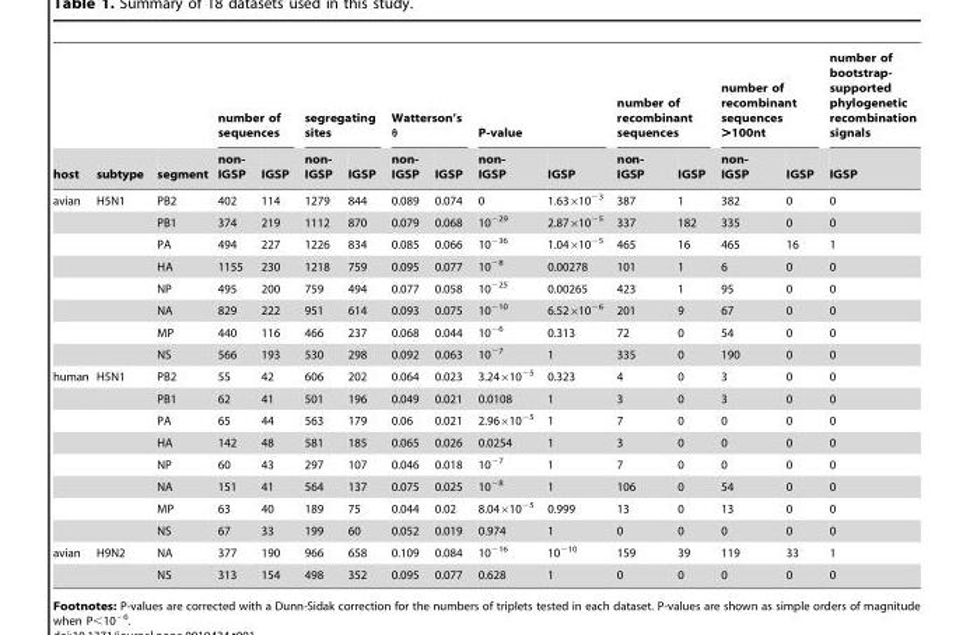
<table><thead><tr><td rowspan="2">host</td><td rowspan="2">subtype</td><td rowspan="2">segment</td><td colspan="2">number of sequences</td><td colspan="2">segregating sites</td><td colspan="2">Watterson’s h</td><td colspan="2">P-value</td><td colspan="2">number of recombinant sequences</td><td colspan="2">number of recombinant sequences &gt;100nt</td><td rowspan="2">number of bootstrap- supported phylogenetic recombination signals IGSP</td></tr><tr><td>non- IGSP</td><td>IGSP</td><td>non- IGSP</td><td>IGSP</td><td>non- IGSP</td><td>IGSP</td><td>non- IGSP</td><td>IGSP</td><td>non- IGSP</td><td>IGSP</td><td>non- IGSP</td><td>IGSP</td></tr></thead><tbody><tr><td rowspan="8">avian</td><td>H5N1</td><td>PB2</td><td>402</td><td>114</td><td>1279</td><td>844</td><td>0.089</td><td>0.074</td><td>0</td><td>1.63×10<sup>−3</sup></td><td>387</td><td>1</td><td>382</td><td>0</td><td>0</td></tr><tr><td></td><td>PB1</td><td>374</td><td>219</td><td>1112</td><td>870</td><td>0.079</td><td>0.068</td><td>10<sup>−29</sup></td><td>2.87×10<sup>−5</sup></td><td>337</td><td>182</td><td>335</td><td>0</td><td>0</td></tr><tr><td></td><td>PA</td><td>494</td><td>227</td><td>1226</td><td>834</td><td>0.085</td><td>0.066</td><td>10<sup>−36</sup></td><td>1.04×10<sup>−5</sup></td><td>465</td><td>16</td><td>465</td><td>16</td><td>1</td></tr><tr><td></td><td>HA</td><td>1155</td><td>230</td><td>1218</td><td>759</td><td>0.095</td><td>0.077</td><td>10<sup>−8</sup></td><td>0.00278</td><td>101</td><td>1</td><td>6</td><td>0</td><td>0</td></tr><tr><td></td><td>NP</td><td>495</td><td>200</td><td>759</td><td>494</td><td>0.077</td><td>0.058</td><td>10<sup>−25</sup></td><td>0.00265</td><td>423</td><td>1</td><td>95</td><td>0</td><td>0</td></tr><tr><td></td><td>NA</td><td>829</td><td>222</td><td>951</td><td>614</td><td>0.093</td><td>0.075</td><td>10<sup>−10</sup></td><td>6.52×10<sup>−6</sup></td><td>201</td><td>9</td><td>67</td><td>0</td><td>0</td></tr><tr><td></td><td>MP</td><td>440</td><td>116</td><td>466</td><td>237</td><td>0.068</td><td>0.044</td><td>10<sup>−6</sup></td><td>0.313</td><td>72</td><td>0</td><td>54</td><td>0</td><td>0</td></tr><tr><td></td><td>NS</td><td>566</td><td>193</td><td>530</td><td>298</td><td>0.092</td><td>0.063</td><td>10<sup>−7</sup></td><td>1</td><td>335</td><td>0</td><td>190</td><td>0</td><td>0</td></tr><tr><td rowspan="8">human</td><td>H5N1</td><td>PB2</td><td>55</td><td>42</td><td>606</td><td>202</td><td>0.064</td><td>0.023</td><td>3.24×10<sup>−5</sup></td><td>0.323</td><td>4</td><td>0</td><td>3</td><td>0</td><td>0</td></tr><tr><td></td><td>PB1</td><td>62</td><td>41</td><td>501</td><td>196</td><td>0.049</td><td>0.021</td><td>0.0108</td><td>1</td><td>3</td><td>0</td><td>3</td><td>0</td><td>0</td></tr><tr><td></td><td>PA</td><td>65</td><td>44</td><td>563</td><td>179</td><td>0.06</td><td>0.021</td><td>2.96×10<sup>−5</sup></td><td>1</td><td>7</td><td>0</td><td>0</td><td>0</td><td>0</td></tr><tr><td></td><td>HA</td><td>142</td><td>48</td><td>581</td><td>185</td><td>0.065</td><td>0.026</td><td>0.0254</td><td>1</td><td>3</td><td>0</td><td>0</td><td>0</td><td>0</td></tr><tr><td></td><td>NP</td><td>60</td><td>43</td><td>297</td><td>107</td><td>0.046</td><td>0.018</td><td>10<sup>−7</sup></td><td>1</td><td>7</td><td>0</td><td>0</td><td>0</td><td>0</td></tr><tr><td></td><td>NA</td><td>151</td><td>41</td><td>564</td><td>137</td><td>0.075</td><td>0.025</td><td>10<sup>−8</sup></td><td>1</td><td>106</td><td>0</td><td>54</td><td>0</td><td>0</td></tr><tr><td></td><td>MP</td><td>63</td><td>40</td><td>189</td><td>75</td><td>0.044</td><td>0.02</td><td>8.04×10<sup>−5</sup></td><td>0.999</td><td>13</td><td>0</td><td>13</td><td>0</td><td>0</td></tr><tr><td></td><td>NS</td><td>67</td><td>33</td><td>199</td><td>60</td><td>0.052</td><td>0.019</td><td>0.974</td><td>1</td><td>0</td><td>0</td><td>0</td><td>0</td><td>0</td></tr><tr><td rowspan="2">avian</td><td>H9N2</td><td>NA</td><td>377</td><td>190</td><td>966</td><td>658</td><td>0.109</td><td>0.084</td><td>10<sup>−16</sup></td><td>10<sup>−10</sup></td><td>159</td><td>39</td><td>119</td><td>33</td><td>1</td></tr><tr><td></td><td>NS</td><td>313</td><td>154</td><td>498</td><td>352</td><td>0.095</td><td>0.077</td><td>0.628</td><td>1</td><td>0</td><td>0</td><td>0</td><td>0</td><td>0</td></tr></tbody></table>